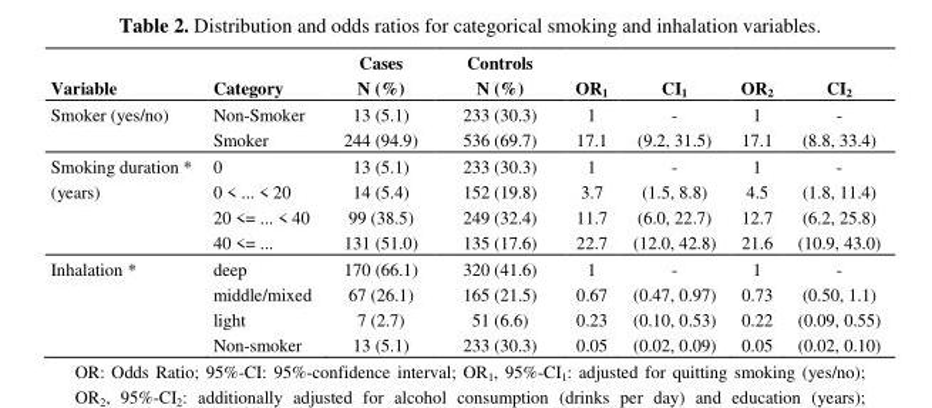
<table><thead><tr><td>Variable</td><td>Category</td><td>Cases N (%)</td><td>Controls N (%)</td><td>OR<sub>1</sub></td><td>CI<sub>1</sub></td><td>OR<sub>2</sub></td><td>CI<sub>2</sub></td></tr></thead><tbody><tr><td rowspan="2">Smoker (yes/no)</td><td>Non-Smoker</td><td>13 (5.1)</td><td>233 (30.3)</td><td>1</td><td>-</td><td>1</td><td>-</td></tr><tr><td>Smoker</td><td>244 (94.9)</td><td>536 (69.7)</td><td>17.1</td><td>(9.2, 31.5)</td><td>17.1</td><td>(8.8, 33.4)</td></tr><tr><td rowspan="4">Smoking duration * (years)</td><td>0</td><td>13 (5.1)</td><td>233 (30.3)</td><td>1</td><td>-</td><td>1</td><td>-</td></tr><tr><td>0 &lt; ... &lt; 20</td><td>14 (5.4)</td><td>152 (19.8)</td><td>3.7</td><td>(1.5, 8.8)</td><td>4.5</td><td>(1.8, 11.4)</td></tr><tr><td>20 &lt;= ... &lt; 40</td><td>99 (38.5)</td><td>249 (32.4)</td><td>11.7</td><td>(6.0, 22.7)</td><td>12.7</td><td>(6.2, 25.8)</td></tr><tr><td>40 &lt;= ...</td><td>131 (51.0)</td><td>135 (17.6)</td><td>22.7</td><td>(12.0, 42.8)</td><td>21.6</td><td>(10.9, 43.0)</td></tr><tr><td rowspan="4">Inhalation *</td><td>deep</td><td>170 (66.1)</td><td>320 (41.6)</td><td>1</td><td>-</td><td>1</td><td>-</td></tr><tr><td>middle/mixed</td><td>67 (26.1)</td><td>165 (21.5)</td><td>0.67</td><td>(0.47, 0.97)</td><td>0.73</td><td>(0.50, 1.1)</td></tr><tr><td>light</td><td>7 (2.7)</td><td>51 (6.6)</td><td>0.23</td><td>(0.10, 0.53)</td><td>0.22</td><td>(0.09, 0.55)</td></tr><tr><td>Non-smoker</td><td>13 (5.1)</td><td>233 (30.3)</td><td>0.05</td><td>(0.02, 0.09)</td><td>0.05</td><td>(0.02, 0.10)</td></tr></tbody></table>